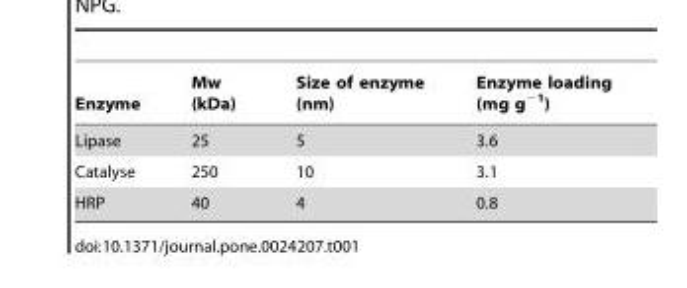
<table><thead><tr><td>Enzyme</td><td>Mw (kDa)</td><td>Size of enzyme (nm)</td><td>Enzyme loading (mg g<sup>−1</sup>)</td></tr></thead><tbody><tr><td>Lipase</td><td>25</td><td>5</td><td>3.6</td></tr><tr><td>Catalyse</td><td>250</td><td>10</td><td>3.1</td></tr><tr><td>HRP</td><td>40</td><td>4</td><td>0.8</td></tr></tbody></table>